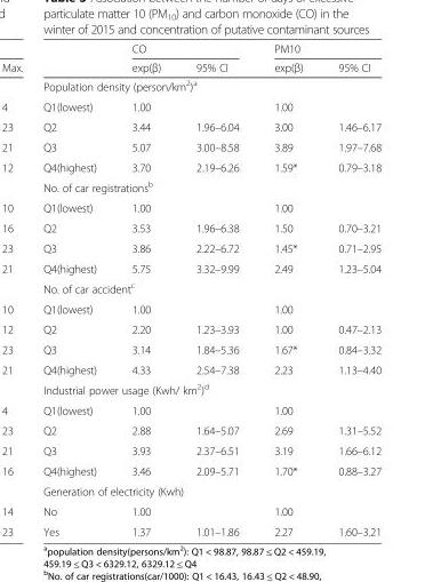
<table><thead><tr><td rowspan="2"></td><td colspan="2">CO</td><td colspan="2">PM10</td></tr><tr><td>exp(β)</td><td>95% CI</td><td>exp(β)</td><td>95% CI</td></tr></thead><tbody><tr><td colspan="5">Population density (person/km<sup>2</sup>)<sup>a</sup></td></tr><tr><td>Q1(lowest)</td><td>1.00</td><td></td><td>1.00</td><td></td></tr><tr><td>Q2</td><td>3.44</td><td>1.96–6.04</td><td>3.00</td><td>1.46–6.17</td></tr><tr><td>Q3</td><td>5.07</td><td>3.00–8.58</td><td>3.89</td><td>1.97–7.68</td></tr><tr><td>Q4(highest)</td><td>3.70</td><td>2.19–6.26</td><td>1.59*</td><td>0.79–3.18</td></tr><tr><td colspan="5">No. of car registrations<sup>b</sup></td></tr><tr><td>Q1(lowest)</td><td>1.00</td><td></td><td>1.00</td><td></td></tr><tr><td>Q2</td><td>3.53</td><td>1.96–6.38</td><td>1.50</td><td>0.70–3.21</td></tr><tr><td>Q3</td><td>3.86</td><td>2.22–6.72</td><td>1.45*</td><td>0.71–2.95</td></tr><tr><td>Q4(highest)</td><td>5.75</td><td>3.32–9.99</td><td>2.49</td><td>1.23–5.04</td></tr><tr><td colspan="5">No. of car accident<sup>c</sup></td></tr><tr><td>Q1(lowest)</td><td>1.00</td><td></td><td>1.00</td><td></td></tr><tr><td>Q2</td><td>2.20</td><td>1.23–3.93</td><td>1.00</td><td>0.47–2.13</td></tr><tr><td>Q3</td><td>3.14</td><td>1.84–5.36</td><td>1.67*</td><td>0.84–3.32</td></tr><tr><td>Q4(highest)</td><td>4.33</td><td>2.54–7.38</td><td>2.23</td><td>1.13–4.40</td></tr><tr><td colspan="5">Industrial power usage (Kwh/ km<sup>2</sup>)<sup>d</sup></td></tr><tr><td>Q1(lowest)</td><td>1.00</td><td></td><td>1.00</td><td></td></tr><tr><td>Q2</td><td>2.88</td><td>1.64–5.07</td><td>2.69</td><td>1.31–5.52</td></tr><tr><td>Q3</td><td>3.93</td><td>2.37–6.51</td><td>3.19</td><td>1.66–6.12</td></tr><tr><td>Q4(highest)</td><td>3.46</td><td>2.09–5.71</td><td>1.70*</td><td>0.88–3.27</td></tr><tr><td colspan="5">Generation of electricity (Kwh)</td></tr><tr><td>No</td><td>1.00</td><td></td><td>1.00</td><td></td></tr><tr><td>Yes</td><td>1.37</td><td>1.01–1.86</td><td>2.27</td><td>1.60–3.21</td></tr></tbody></table>